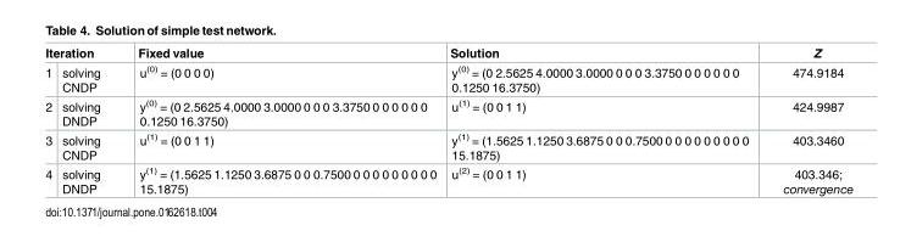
<table><thead><tr><td colspan="2">Iteration</td><td rowspan="2">Fixed value u<sup>(0)</sup> = (0 0 0 0)</td><td rowspan="2">Solution y<sup>(0)</sup> = (0 2.5625 4.0000 3.0000 0 0 0 3.3750 0 0 0 0 0 0 0.1250 16.3750)</td><td rowspan="2">Z 474.9184</td></tr><tr><td>1</td><td>solving CNDP</td></tr></thead><tbody><tr><td>2</td><td>solving DNDP</td><td>y<sup>(0)</sup> = (0 2.5625 4.0000 3.0000 0 0 0 3.3750 0 0 0 0 0 0 0.1250 16.3750)</td><td>u<sup>(1)</sup> = (0 0 1 1)</td><td>424.9987</td></tr><tr><td>3</td><td>solving CNDP</td><td>u<sup>(1)</sup> = (0 0 1 1)</td><td>y<sup>(1)</sup> = (1.5625 1.1250 3.6875 0 0 0.7500 0 0 0 0 0 0 0 0 0 15.1875)</td><td>403.3460</td></tr><tr><td>4</td><td>solving DNDP</td><td>y<sup>(1)</sup> = (1.5625 1.1250 3.6875 0 0 0.7500 0 0 0 0 0 0 0 0 0 15.1875)</td><td>u<sup>(2)</sup> = (0 0 1 1)</td><td>403.346; convergence</td></tr></tbody></table>